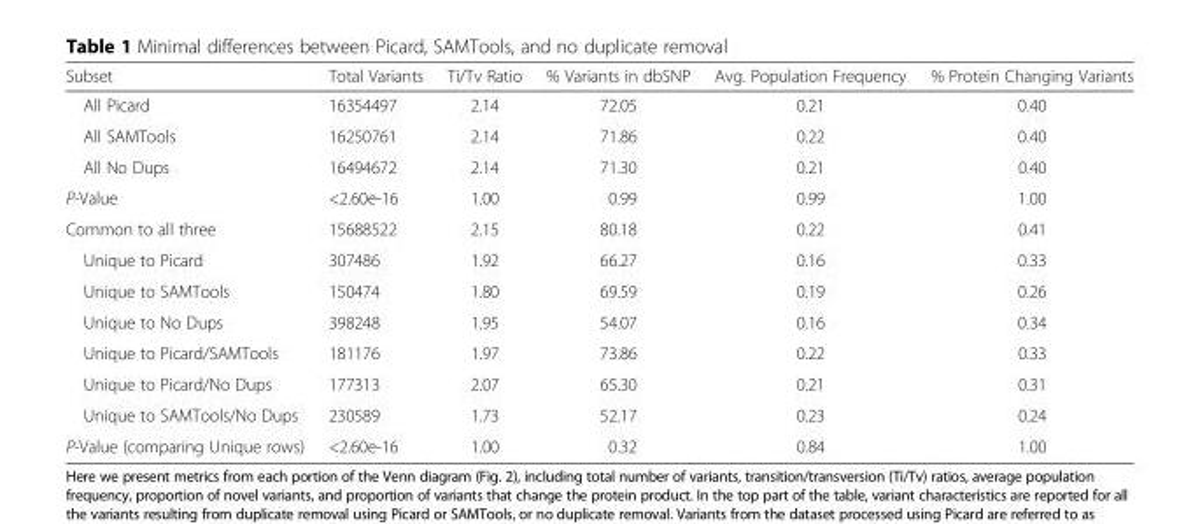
<table><thead><tr><td>Subset</td><td>Total Variants</td><td>Ti/Tv Ratio</td><td>% Variants in dbSNP</td><td>Avg. Population Frequency</td><td>% Protein Changing Variants</td></tr></thead><tbody><tr><td>All Picard</td><td>16354497</td><td>2.14</td><td>72.05</td><td>0.21</td><td>0.40</td></tr><tr><td>All SAMTools</td><td>16250761</td><td>2.14</td><td>71.86</td><td>0.22</td><td>0.40</td></tr><tr><td>All No Dups</td><td>16494672</td><td>2.14</td><td>71.30</td><td>0.21</td><td>0.40</td></tr><tr><td>P-Value</td><td>&lt;2.60e-16</td><td>1.00</td><td>0.99</td><td>0.99</td><td>1.00</td></tr><tr><td>Common to all three</td><td>15688522</td><td>2.15</td><td>80.18</td><td>0.22</td><td>0.41</td></tr><tr><td>Unique to Picard</td><td>307486</td><td>1.92</td><td>66.27</td><td>0.16</td><td>0.33</td></tr><tr><td>Unique to SAMTools</td><td>150474</td><td>1.80</td><td>69.59</td><td>0.19</td><td>0.26</td></tr><tr><td>Unique to No Dups</td><td>398248</td><td>1.95</td><td>54.07</td><td>0.16</td><td>0.34</td></tr><tr><td>Unique to Picard/SAMTools</td><td>181176</td><td>1.97</td><td>73.86</td><td>0.22</td><td>0.33</td></tr><tr><td>Unique to Picard/No Dups</td><td>177313</td><td>2.07</td><td>65.30</td><td>0.21</td><td>0.31</td></tr><tr><td>Unique to SAMTools/No Dups</td><td>230589</td><td>1.73</td><td>52.17</td><td>0.23</td><td>0.24</td></tr><tr><td>P-Value (comparing Unique rows)</td><td>&lt;2.60e-16</td><td>1.00</td><td>0.32</td><td>0.84</td><td>1.00</td></tr></tbody></table>